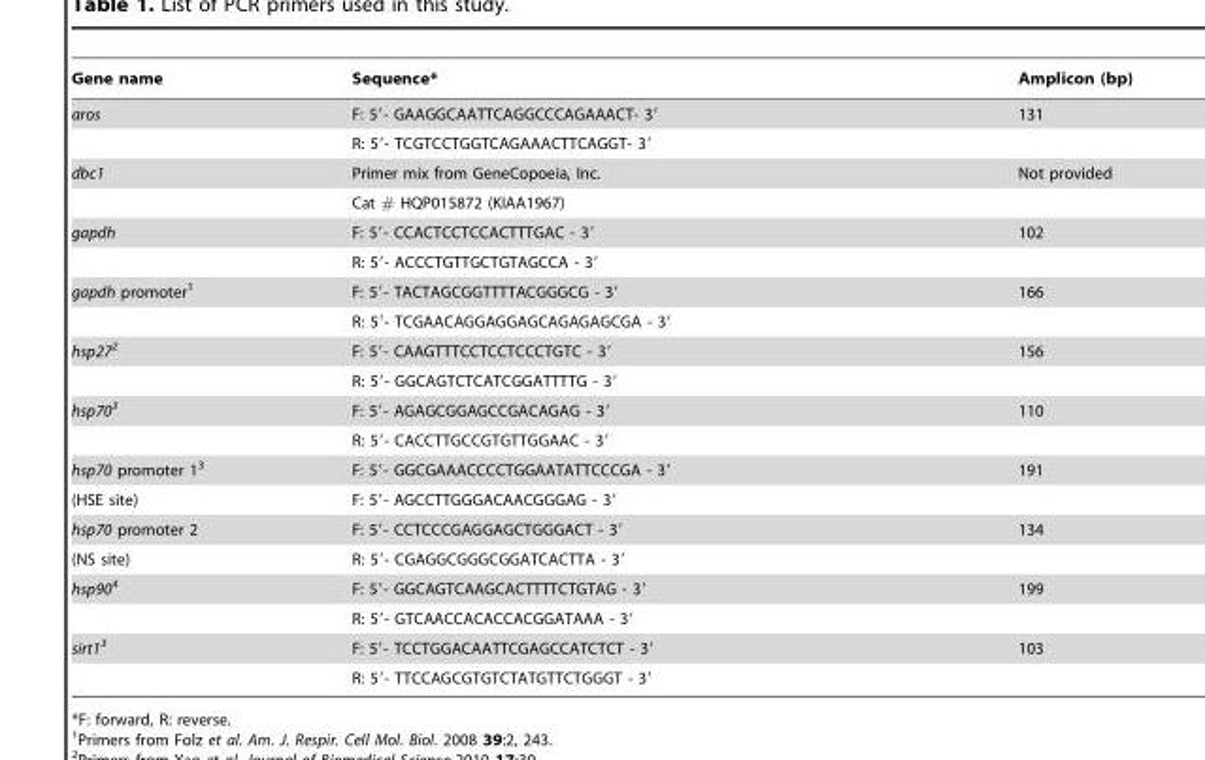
<table><thead><tr><td>Gene name</td><td>Sequence*</td><td>Amplicon (bp)</td></tr></thead><tbody><tr><td rowspan="2">aros</td><td>F: 5′- GAAGGCAATTCAGGCCCAGAAACT- 3′</td><td>131</td></tr><tr><td>R: 5′- TCGTCCTGGTCAGAAACTTCAGGT- 3′</td><td></td></tr><tr><td rowspan="2">dbc1</td><td>Primer mix from GeneCopoeia, Inc.</td><td>Not provided</td></tr><tr><td>Cat # HQP015872 (KIAA1967)</td><td></td></tr><tr><td rowspan="2">gapdh</td><td>F: 5′- CCACTCCTCCACTTTGAC - 3′</td><td>102</td></tr><tr><td>R: 5′- ACCCTGTTGCTGTAGCCA - 3′</td><td></td></tr><tr><td rowspan="2">gapdh promoter<sup>1</sup></td><td>F: 5′- TACTAGCGGTTTTACGGGCG - 3′</td><td>166</td></tr><tr><td>R: 5′- TCGAACAGGAGGAGCAGAGAGCGA - 3′</td><td></td></tr><tr><td rowspan="2">hsp272</td><td>F: 5′- CAAGTTTCCTCCTCCCTGTC - 3′</td><td>156</td></tr><tr><td>R: 5′- GGCAGTCTCATCGGATTTTG - 3′</td><td></td></tr><tr><td rowspan="2">hsp703</td><td>F: 5′- AGAGCGGAGCCGACAGAG - 3′</td><td>110</td></tr><tr><td>R: 5′- CACCTTGCCGTGTTGGAAC - 3′</td><td></td></tr><tr><td>hsp70 promoter 1<sup>3</sup></td><td>F: 5′- GGCGAAACCCCTGGAATATTCCCGA - 3′</td><td>191</td></tr><tr><td>(HSE site)</td><td>F: 5′- AGCCTTGGGACAACGGGAG - 3′</td><td></td></tr><tr><td>hsp70 promoter 2</td><td>F: 5′- CCTCCCGAGGAGCTGGGACT - 3′</td><td>134</td></tr><tr><td>(NS site)</td><td>R: 5′- CGAGGCGGGCGGATCACTTA - 3′</td><td></td></tr><tr><td rowspan="2">hsp904</td><td>F: 5′- GGCAGTCAAGCACTTTTCTGTAG - 3′</td><td>199</td></tr><tr><td>R: 5′- GTCAACCACACCACGGATAAA - 3′</td><td></td></tr><tr><td rowspan="2">sirt13</td><td>F: 5′- TCCTGGACAATTCGAGCCATCTCT - 3′</td><td>103</td></tr><tr><td>R: 5′- TTCCAGCGTGTCTATGTTCTGGGT - 3′</td><td></td></tr></tbody></table>